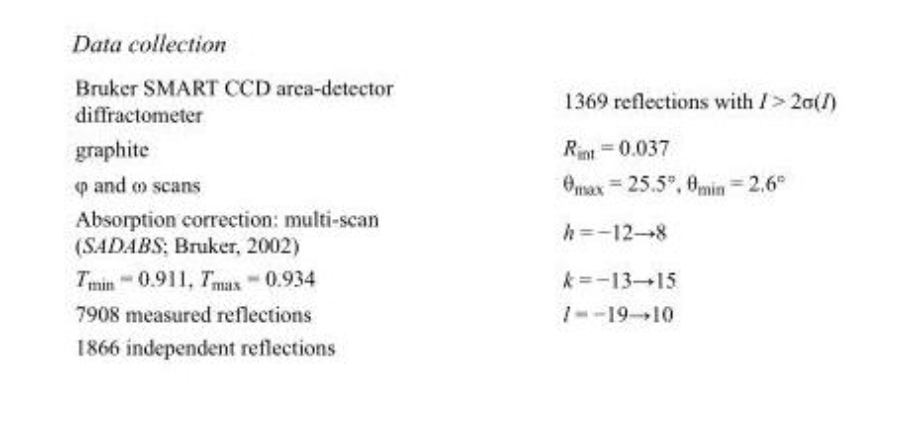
<table><tbody><tr><td>Bruker SMART CCD area-detector diffractometer</td><td>1369 reflections with I &gt; 2σ(I)</td></tr><tr><td>graphite</td><td>R<sub>int</sub> = 0.037</td></tr><tr><td>φ and ω scans</td><td>θ<sub>max</sub> = 25.5°, θ<sub>min</sub> = 2.6°</td></tr><tr><td>Absorption correction: multi-scan (SADABS; Bruker, 2002)</td><td>h = −12→8</td></tr><tr><td>T<sub>min</sub> = 0.911, T<sub>max</sub> = 0.934</td><td>k = −13→15</td></tr><tr><td>7908 measured reflections</td><td>l = −19→10</td></tr><tr><td>1866 independent reflections</td><td></td></tr></tbody></table>